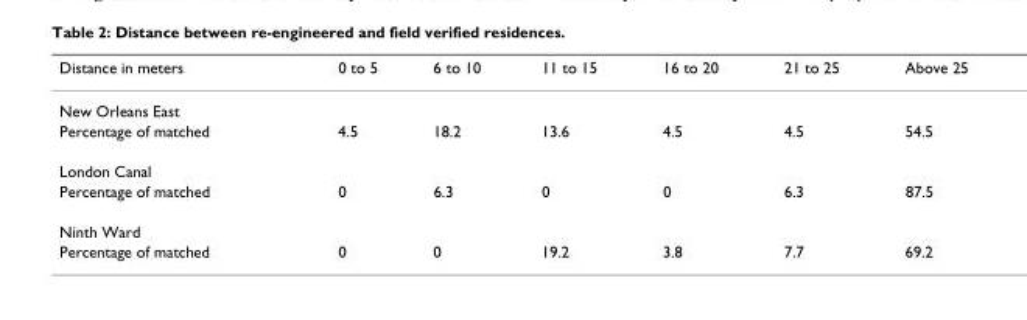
<table><thead><tr><td>Distance in meters</td><td>0 to 5</td><td>6 to 10</td><td>11 to 15</td><td>16 to 20</td><td>21 to 25</td><td>Above 25</td></tr></thead><tbody><tr><td colspan="7">New Orleans East</td></tr><tr><td>Percentage of matched</td><td>4.5</td><td>18.2</td><td>13.6</td><td>4.5</td><td>4.5</td><td>54.5</td></tr><tr><td colspan="7">London Canal</td></tr><tr><td>Percentage of matched</td><td>0</td><td>6.3</td><td>0</td><td>0</td><td>6.3</td><td>87.5</td></tr><tr><td colspan="7">Ninth Ward</td></tr><tr><td>Percentage of matched</td><td>0</td><td>0</td><td>19.2</td><td>3.8</td><td>7.7</td><td>69.2</td></tr></tbody></table>